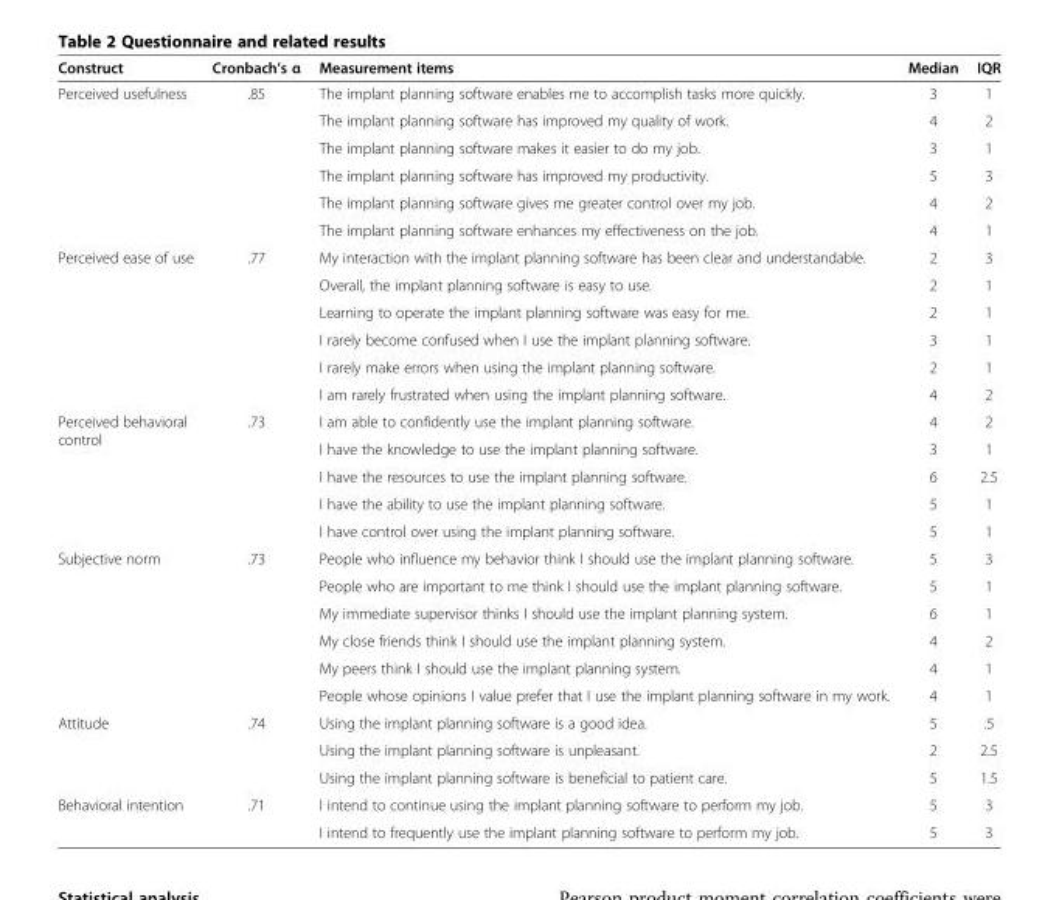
<table><thead><tr><td>Construct</td><td>Cronbach’s α</td><td>Measurement items</td><td>Median</td><td>IQR</td></tr></thead><tbody><tr><td rowspan="6">Perceived usefulness</td><td rowspan="6">.85</td><td>The implant planning software enables me to accomplish tasks more quickly.</td><td>3</td><td>1</td></tr><tr><td>The implant planning software has improved my quality of work.</td><td>4</td><td>2</td></tr><tr><td>The implant planning software makes it easier to do my job.</td><td>3</td><td>1</td></tr><tr><td>The implant planning software has improved my productivity.</td><td>5</td><td>3</td></tr><tr><td>The implant planning software gives me greater control over my job.</td><td>4</td><td>2</td></tr><tr><td>The implant planning software enhances my effectiveness on the job.</td><td>4</td><td>1</td></tr><tr><td rowspan="6">Perceived ease of use</td><td rowspan="6">.77</td><td>My interaction with the implant planning software has been clear and understandable.</td><td>2</td><td>3</td></tr><tr><td>Overall, the implant planning software is easy to use.</td><td>2</td><td>1</td></tr><tr><td>Learning to operate the implant planning software was easy for me.</td><td>2</td><td>1</td></tr><tr><td>I rarely become confused when I use the implant planning software.</td><td>3</td><td>1</td></tr><tr><td>I rarely make errors when using the implant planning software.</td><td>2</td><td>1</td></tr><tr><td>I am rarely frustrated when using the implant planning software.</td><td>4</td><td>2</td></tr><tr><td rowspan="5">Perceived behavioral control</td><td rowspan="5">.73</td><td>I am able to confidently use the implant planning software.</td><td>4</td><td>2</td></tr><tr><td>I have the knowledge to use the implant planning software.</td><td>3</td><td>1</td></tr><tr><td>I have the resources to use the implant planning software.</td><td>6</td><td>2.5</td></tr><tr><td>I have the ability to use the implant planning software.</td><td>5</td><td>1</td></tr><tr><td>I have control over using the implant planning software.</td><td>5</td><td>1</td></tr><tr><td rowspan="6">Subjective norm</td><td rowspan="6">.73</td><td>People who influence my behavior think I should use the implant planning software.</td><td>5</td><td>3</td></tr><tr><td>People who are important to me think I should use the implant planning software.</td><td>5</td><td>1</td></tr><tr><td>My immediate supervisor thinks I should use the implant planning system.</td><td>6</td><td>1</td></tr><tr><td>My close friends think I should use the implant planning system.</td><td>4</td><td>2</td></tr><tr><td>My peers think I should use the implant planning system.</td><td>4</td><td>1</td></tr><tr><td>People whose opinions I value prefer that I use the implant planning software in my work.</td><td>4</td><td>1</td></tr><tr><td rowspan="3">Attitude</td><td rowspan="3">.74</td><td>Using the implant planning software is a good idea.</td><td>5</td><td>.5</td></tr><tr><td>Using the implant planning software is unpleasant.</td><td>2</td><td>2.5</td></tr><tr><td>Using the implant planning software is beneficial to patient care.</td><td>5</td><td>1.5</td></tr><tr><td rowspan="2">Behavioral intention</td><td rowspan="2">.71</td><td>I intend to continue using the implant planning software to perform my job.</td><td>5</td><td>3</td></tr><tr><td>I intend to frequently use the implant planning software to perform my job.</td><td>5</td><td>3</td></tr></tbody></table>